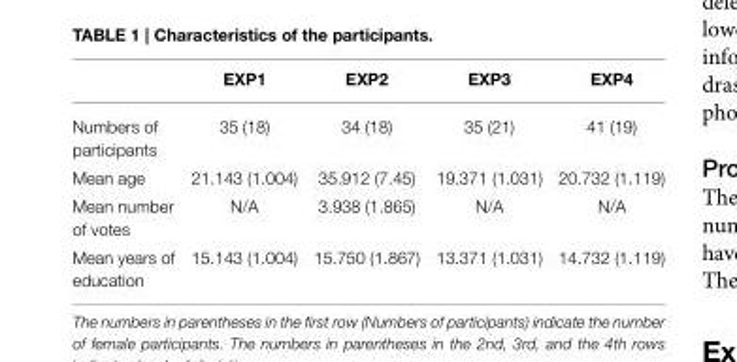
<table><thead><tr><td></td><td>EXP1</td><td>EXP2</td><td>EXP3</td><td>EXP4</td></tr></thead><tbody><tr><td>Numbers of participants</td><td>35 (18)</td><td>34 (18)</td><td>35 (21)</td><td>41 (19)</td></tr><tr><td>Mean age</td><td>21.143 (1.004)</td><td>35.912 (7.45)</td><td>19.371 (1.031)</td><td>20.732 (1.119)</td></tr><tr><td>Mean number of votes</td><td>N/A</td><td>3.938 (1.865)</td><td>N/A</td><td>N/A</td></tr><tr><td>Mean years of education</td><td>15.143 (1.004)</td><td>15.750 (1.867)</td><td>13.371 (1.031)</td><td>14.732 (1.119)</td></tr></tbody></table>